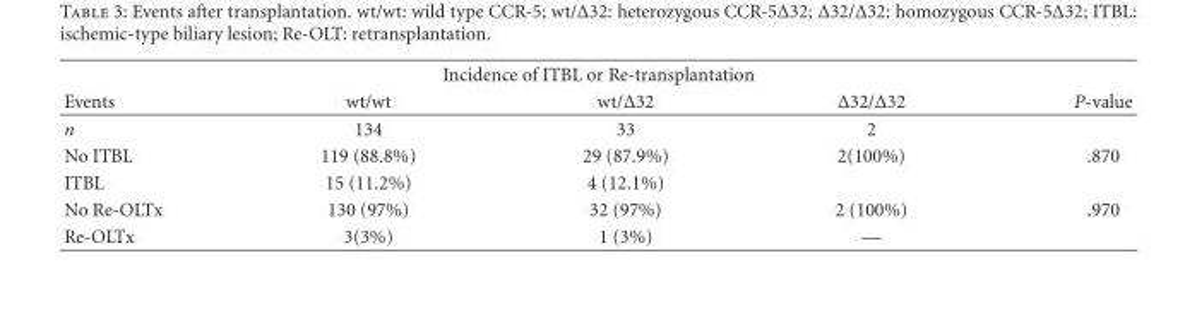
<table><thead><tr><td colspan="5">Incidence of ITBL or Re-transplantation</td></tr><tr><td>Events</td><td>wt/wt</td><td>wt/Δ32</td><td>Δ32/Δ32</td><td>P-value</td></tr></thead><tbody><tr><td>n</td><td>134</td><td>33</td><td>2</td><td></td></tr><tr><td>No ITBL</td><td>119 (88.8%)</td><td>29 (87.9%)</td><td>2(100%)</td><td>.870</td></tr><tr><td>ITBL</td><td>15 (11.2%)</td><td>4 (12.1%)</td><td></td><td></td></tr><tr><td>No Re-OLTx</td><td>130 (97%)</td><td>32 (97%)</td><td>2 (100%)</td><td>.970</td></tr><tr><td>Re-OLTx</td><td>3(3%)</td><td>1 (3%)</td><td>—</td><td></td></tr></tbody></table>